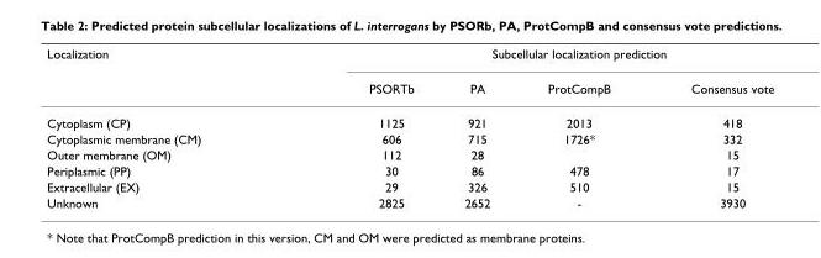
<table><thead><tr><td rowspan="2">Localization</td><td colspan="4">Subcellular localization prediction</td></tr><tr><td>PSORTb</td><td>PA</td><td>ProtCompB</td><td>Consensus vote</td></tr></thead><tbody><tr><td>Cytoplasm (CP)</td><td>1125</td><td>921</td><td>2013</td><td>418</td></tr><tr><td>Cytoplasmic membrane (CM)</td><td>606</td><td>715</td><td>1726*</td><td>332</td></tr><tr><td>Outer membrane (OM)</td><td>112</td><td>28</td><td></td><td>15</td></tr><tr><td>Periplasmic (PP)</td><td>30</td><td>86</td><td>478</td><td>17</td></tr><tr><td>Extracellular (EX)</td><td>29</td><td>326</td><td>510</td><td>15</td></tr><tr><td>Unknown</td><td>2825</td><td>2652</td><td>-</td><td>3930</td></tr></tbody></table>